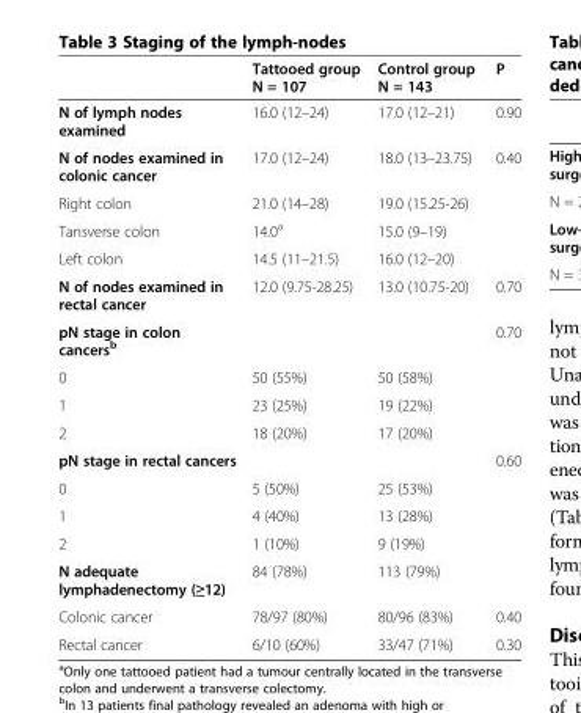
<table><thead><tr><td></td><td>Tattooed group N = 107</td><td>Control group N = 143</td><td>P</td></tr></thead><tbody><tr><td>N of lymph nodes examined</td><td>16.0 (12–24)</td><td>17.0 (12–21)</td><td>0.90</td></tr><tr><td>N of nodes examined in colonic cancer</td><td>17.0 (12–24)</td><td>18.0 (13–23.75)</td><td>0.40</td></tr><tr><td>Right colon</td><td>21.0 (14–28)</td><td>19.0 (15.25-26)</td><td></td></tr><tr><td>Tansverse colon</td><td>14.0<sup>a</sup></td><td>15.0 (9–19)</td><td></td></tr><tr><td>Left colon</td><td>14.5 (11–21.5)</td><td>16.0 (12–20)</td><td></td></tr><tr><td>N of nodes examined in rectal cancer</td><td>12.0 (9.75-28.25)</td><td>13.0 (10.75-20)</td><td>0.70</td></tr><tr><td>pN stage in colon cancers<sup>b</sup></td><td></td><td></td><td>0.70</td></tr><tr><td>0</td><td>50 (55%)</td><td>50 (58%)</td><td></td></tr><tr><td>1</td><td>23 (25%)</td><td>19 (22%)</td><td></td></tr><tr><td>2</td><td>18 (20%)</td><td>17 (20%)</td><td></td></tr><tr><td>pN stage in rectal cancers</td><td></td><td></td><td>0.60</td></tr><tr><td>0</td><td>5 (50%)</td><td>25 (53%)</td><td></td></tr><tr><td>1</td><td>4 (40%)</td><td>13 (28%)</td><td></td></tr><tr><td>2</td><td>1 (10%)</td><td>9 (19%)</td><td></td></tr><tr><td>N adequate lymphadenectomy (≥12)</td><td>84 (78%)</td><td>113 (79%)</td><td></td></tr><tr><td>Colonic cancer</td><td>78/97 (80%)</td><td>80/96 (83%)</td><td>0.40</td></tr><tr><td>Rectal cancer</td><td>6/10 (60%)</td><td>33/47 (71%)</td><td>0.30</td></tr></tbody></table>